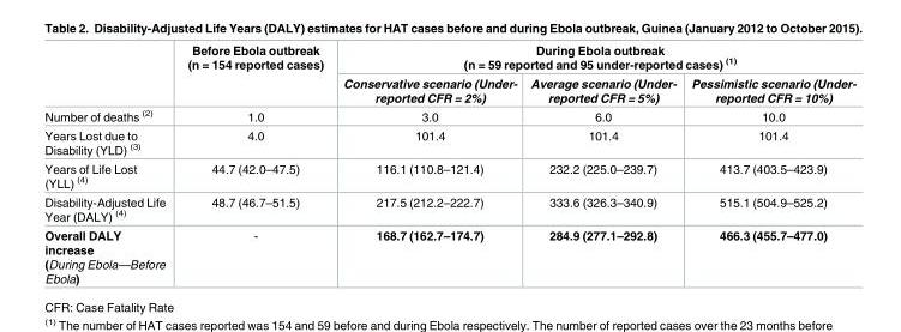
<table><thead><tr><td rowspan="2"></td><td rowspan="2">Before Ebola outbreak (n = 154 reported cases)</td><td colspan="3">During Ebola outbreak (n = 59 reported and 95 under-reported cases) <sup>(1)</sup></td></tr><tr><td>Conservative scenario (Under- reported CFR = 2%)</td><td>Average scenario (Under- reported CFR = 5%)</td><td>Pessimistic scenario (Under- reported CFR = 10%)</td></tr></thead><tbody><tr><td>Number of deaths <sup>(2)</sup></td><td>1.0</td><td>3.0</td><td>6.0</td><td>10.0</td></tr><tr><td>Years Lost due to Disability (YLD) <sup>(3)</sup></td><td>4.0</td><td>101.4</td><td>101.4</td><td>101.4</td></tr><tr><td>Years of Life Lost (YLL) <sup>(4)</sup></td><td>44.7 (42.0–47.5)</td><td>116.1 (110.8–121.4)</td><td>232.2 (225.0–239.7)</td><td>413.7 (403.5–423.9)</td></tr><tr><td>Disability-Adjusted Life Year (DALY) <sup>(4)</sup></td><td>48.7 (46.7–51.5)</td><td>217.5 (212.2–222.7)</td><td>333.6 (326.3–340.9)</td><td>515.1 (504.9–525.2)</td></tr><tr><td>Overall DALY increase (During Ebola—Before Ebola)</td><td>-</td><td>168.7 (162.7–174.7)</td><td>284.9 (277.1–292.8)</td><td>466.3 (455.7–477.0)</td></tr></tbody></table>